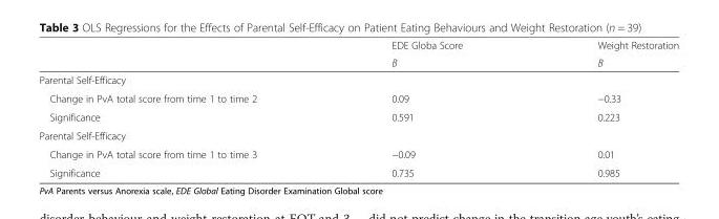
<table><thead><tr><td rowspan="2"></td><td rowspan="2">EDE Globa Score B</td><td rowspan="2">Weight Restoration B</td></tr><tr></tr></thead><tbody><tr><td colspan="3">Parental Self-Efficacy</td></tr><tr><td>Change in PvA total score from time 1 to time 2</td><td>0.09</td><td>−0.33</td></tr><tr><td>Significance</td><td>0.591</td><td>0.223</td></tr><tr><td colspan="3">Parental Self-Efficacy</td></tr><tr><td>Change in PvA total score from time 1 to time 3</td><td>−0.09</td><td>0.01</td></tr><tr><td>Significance</td><td>0.735</td><td>0.985</td></tr></tbody></table>